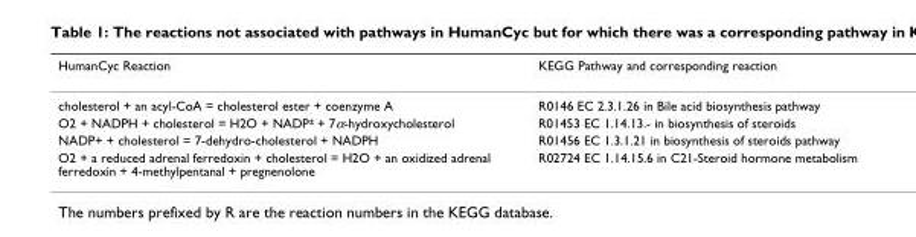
<table><thead><tr><td>HumanCyc Reaction</td><td>KEGG Pathway and corresponding reaction</td></tr></thead><tbody><tr><td>cholesterol + an acyl-CoA = cholesterol ester + coenzyme A</td><td>R0146 EC 2.3.1.26 in Bile acid biosynthesis pathway</td></tr><tr><td>O2 + NADPH + cholesterol = H2O + NADP± + 7α-hydroxycholesterol</td><td>R01453 EC 1.14.13.- in biosynthesis of steroids</td></tr><tr><td>NADP+ + cholesterol = 7-dehydro-cholesterol + NADPH</td><td>R01456 EC 1.3.1.21 in biosynthesis of steroids pathway</td></tr><tr><td>O2 + a reduced adrenal ferredoxin + cholesterol = H2O + an oxidized adrenal ferredoxin + 4-methylpentanal + pregnenolone</td><td>R02724 EC 1.14.15.6 in C21-Steroid hormone metabolism</td></tr></tbody></table>